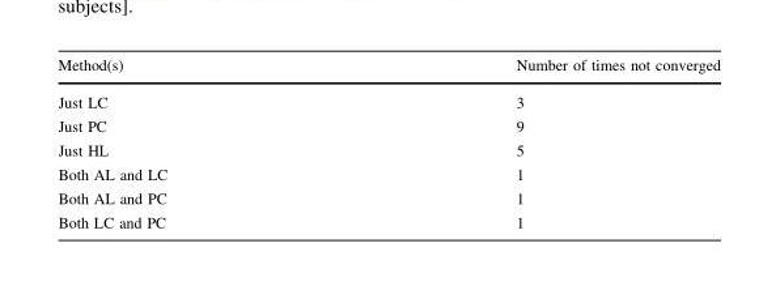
<table><thead><tr><td>Method(s)</td><td>Number of times not converged</td></tr></thead><tbody><tr><td>Just LC</td><td>3</td></tr><tr><td>Just PC</td><td>9</td></tr><tr><td>Just HL</td><td>5</td></tr><tr><td>Both AL and LC</td><td>1</td></tr><tr><td>Both AL and PC</td><td>1</td></tr><tr><td>Both LC and PC</td><td>1</td></tr></tbody></table>